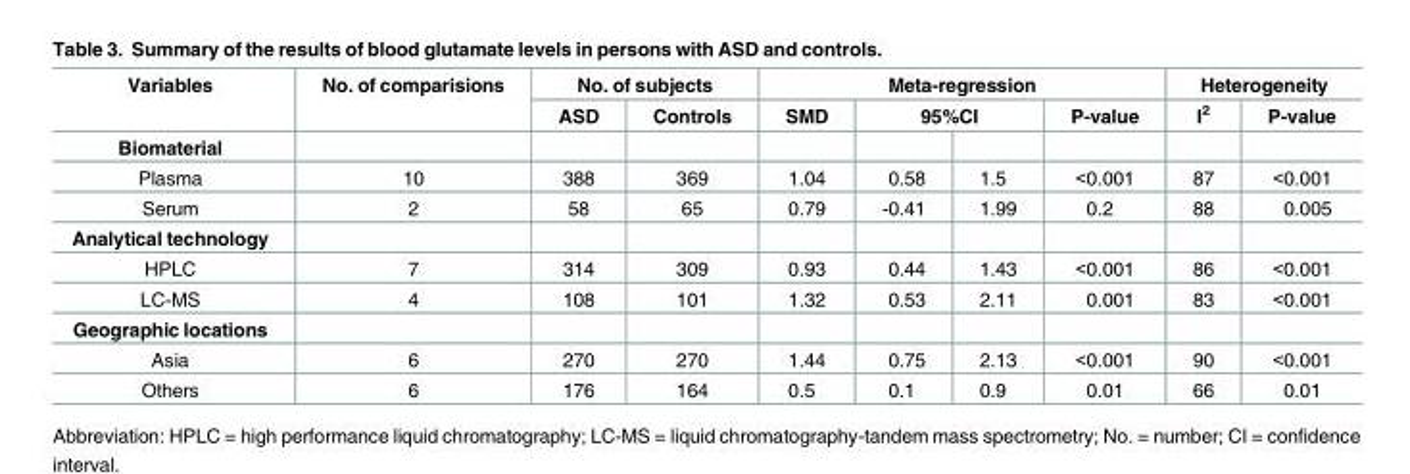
<table><thead><tr><td rowspan="3">Variables Biomaterial</td><td rowspan="3">No. of comparisions</td><td colspan="2">No. of subjects</td><td colspan="4">Meta-regression</td><td colspan="2">Heterogeneity</td></tr><tr><td rowspan="2">ASD</td><td rowspan="2">Controls</td><td rowspan="2">SMD</td><td colspan="2">95%CI</td><td rowspan="2">P-value</td><td rowspan="2">I<sup>2</sup></td><td rowspan="2">P-value</td></tr><tr><td></td><td></td></tr></thead><tbody><tr><td>Plasma</td><td>10</td><td>388</td><td>369</td><td>1.04</td><td>0.58</td><td>1.5</td><td>&lt;0.001</td><td>87</td><td>&lt;0.001</td></tr><tr><td>Serum</td><td>2</td><td>58</td><td>65</td><td>0.79</td><td>-0.41</td><td>1.99</td><td>0.2</td><td>88</td><td>0.005</td></tr><tr><td colspan="10">Analytical technology</td></tr><tr><td>HPLC</td><td>7</td><td>314</td><td>309</td><td>0.93</td><td>0.44</td><td>1.43</td><td>&lt;0.001</td><td>86</td><td>&lt;0.001</td></tr><tr><td>LC-MS</td><td>4</td><td>108</td><td>101</td><td>1.32</td><td>0.53</td><td>2.11</td><td>0.001</td><td>83</td><td>&lt;0.001</td></tr><tr><td colspan="10">Geographic locations</td></tr><tr><td>Asia</td><td>6</td><td>270</td><td>270</td><td>1.44</td><td>0.75</td><td>2.13</td><td>&lt;0.001</td><td>90</td><td>&lt;0.001</td></tr><tr><td>Others</td><td>6</td><td>176</td><td>164</td><td>0.5</td><td>0.1</td><td>0.9</td><td>0.01</td><td>66</td><td>0.01</td></tr></tbody></table>